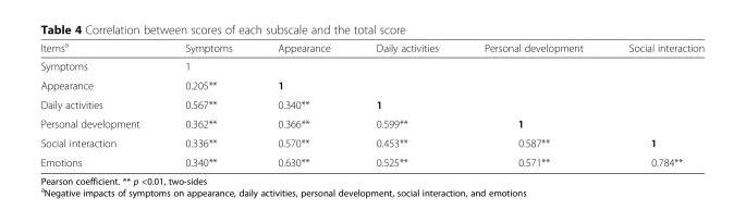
<table><thead><tr><td>Items<sup>a</sup></td><td>Symptoms</td><td>Appearance</td><td>Daily activities</td><td>Personal development</td><td>Social interaction</td></tr></thead><tbody><tr><td>Symptoms</td><td>1</td><td></td><td></td><td></td><td></td></tr><tr><td>Appearance</td><td>0.205**</td><td>1</td><td></td><td></td><td></td></tr><tr><td>Daily activities</td><td>0.567**</td><td>0.340**</td><td>1</td><td></td><td></td></tr><tr><td>Personal development</td><td>0.362**</td><td>0.366**</td><td>0.599**</td><td>1</td><td></td></tr><tr><td>Social interaction</td><td>0.336**</td><td>0.570**</td><td>0.453**</td><td>0.587**</td><td>1</td></tr><tr><td>Emotions</td><td>0.340**</td><td>0.630**</td><td>0.525**</td><td>0.571**</td><td>0.784**</td></tr></tbody></table>